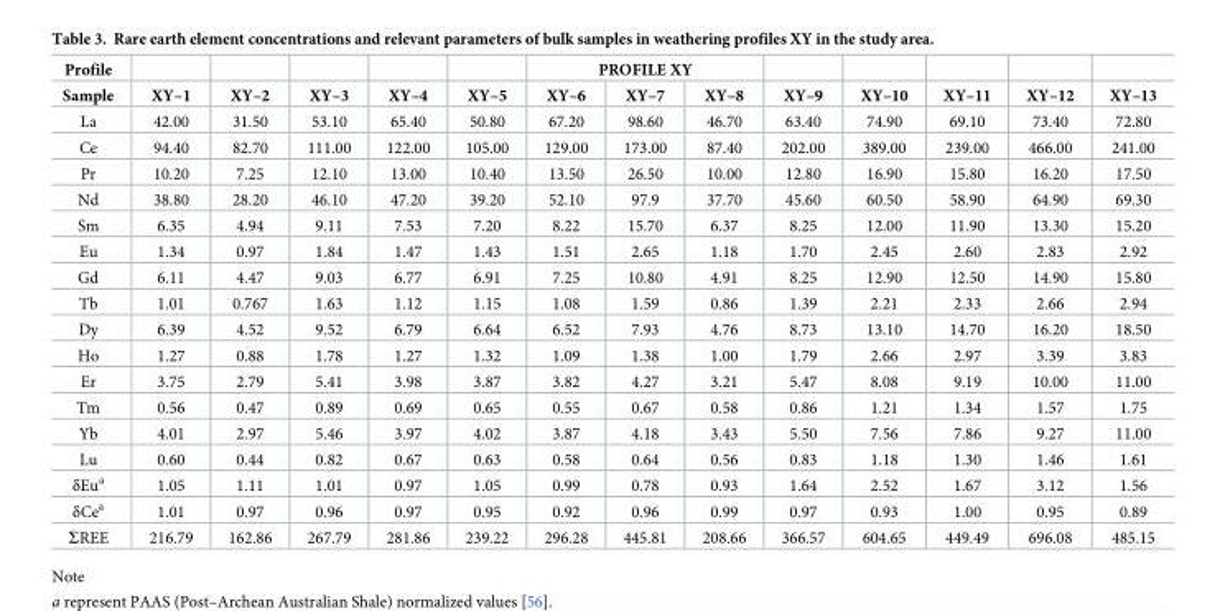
<table><thead><tr><td rowspan="2">Profile Sample</td><td rowspan="2">XY–1</td><td rowspan="2">XY–2</td><td rowspan="2">XY–3</td><td rowspan="2">XY–4</td><td rowspan="2">XY–5</td><td colspan="3">PROFILE XY</td><td rowspan="2">XY–9</td><td rowspan="2">XY–10</td><td rowspan="2">XY–11</td><td rowspan="2">XY–12</td><td rowspan="2">XY–13</td></tr><tr><td>XY–6</td><td>XY–7</td><td>XY–8</td></tr></thead><tbody><tr><td>La</td><td>42.00</td><td>31.50</td><td>53.10</td><td>65.40</td><td>50.80</td><td>67.20</td><td>98.60</td><td>46.70</td><td>63.40</td><td>74.90</td><td>69.10</td><td>73.40</td><td>72.80</td></tr><tr><td>Ce</td><td>94.40</td><td>82.70</td><td>111.00</td><td>122.00</td><td>105.00</td><td>129.00</td><td>173.00</td><td>87.40</td><td>202.00</td><td>389.00</td><td>239.00</td><td>466.00</td><td>241.00</td></tr><tr><td>Pr</td><td>10.20</td><td>7.25</td><td>12.10</td><td>13.00</td><td>10.40</td><td>13.50</td><td>26.50</td><td>10.00</td><td>12.80</td><td>16.90</td><td>15.80</td><td>16.20</td><td>17.50</td></tr><tr><td>Nd</td><td>38.80</td><td>28.20</td><td>46.10</td><td>47.20</td><td>39.20</td><td>52.10</td><td>97.9</td><td>37.70</td><td>45.60</td><td>60.50</td><td>58.90</td><td>64.90</td><td>69.30</td></tr><tr><td>Sm</td><td>6.35</td><td>4.94</td><td>9.11</td><td>7.53</td><td>7.20</td><td>8.22</td><td>15.70</td><td>6.37</td><td>8.25</td><td>12.00</td><td>11.90</td><td>13.30</td><td>15.20</td></tr><tr><td>Eu</td><td>1.34</td><td>0.97</td><td>1.84</td><td>1.47</td><td>1.43</td><td>1.51</td><td>2.65</td><td>1.18</td><td>1.70</td><td>2.45</td><td>2.60</td><td>2.83</td><td>2.92</td></tr><tr><td>Gd</td><td>6.11</td><td>4.47</td><td>9.03</td><td>6.77</td><td>6.91</td><td>7.25</td><td>10.80</td><td>4.91</td><td>8.25</td><td>12.90</td><td>12.50</td><td>14.90</td><td>15.80</td></tr><tr><td>Tb</td><td>1.01</td><td>0.767</td><td>1.63</td><td>1.12</td><td>1.15</td><td>1.08</td><td>1.59</td><td>0.86</td><td>1.39</td><td>2.21</td><td>2.33</td><td>2.66</td><td>2.94</td></tr><tr><td>Dy</td><td>6.39</td><td>4.52</td><td>9.52</td><td>6.79</td><td>6.64</td><td>6.52</td><td>7.93</td><td>4.76</td><td>8.73</td><td>13.10</td><td>14.70</td><td>16.20</td><td>18.50</td></tr><tr><td>Ho</td><td>1.27</td><td>0.88</td><td>1.78</td><td>1.27</td><td>1.32</td><td>1.09</td><td>1.38</td><td>1.00</td><td>1.79</td><td>2.66</td><td>2.97</td><td>3.39</td><td>3.83</td></tr><tr><td>Er</td><td>3.75</td><td>2.79</td><td>5.41</td><td>3.98</td><td>3.87</td><td>3.82</td><td>4.27</td><td>3.21</td><td>5.47</td><td>8.08</td><td>9.19</td><td>10.00</td><td>11.00</td></tr><tr><td>Tm</td><td>0.56</td><td>0.47</td><td>0.89</td><td>0.69</td><td>0.65</td><td>0.55</td><td>0.67</td><td>0.58</td><td>0.86</td><td>1.21</td><td>1.34</td><td>1.57</td><td>1.75</td></tr><tr><td>Yb</td><td>4.01</td><td>2.97</td><td>5.46</td><td>3.97</td><td>4.02</td><td>3.87</td><td>4.18</td><td>3.43</td><td>5.50</td><td>7.56</td><td>7.86</td><td>9.27</td><td>11.00</td></tr><tr><td>Lu</td><td>0.60</td><td>0.44</td><td>0.82</td><td>0.67</td><td>0.63</td><td>0.58</td><td>0.64</td><td>0.56</td><td>0.83</td><td>1.18</td><td>1.30</td><td>1.46</td><td>1.61</td></tr><tr><td>δEu<sup>a</sup></td><td>1.05</td><td>1.11</td><td>1.01</td><td>0.97</td><td>1.05</td><td>0.99</td><td>0.78</td><td>0.93</td><td>1.64</td><td>2.52</td><td>1.67</td><td>3.12</td><td>1.56</td></tr><tr><td>δCe<sup>a</sup></td><td>1.01</td><td>0.97</td><td>0.96</td><td>0.97</td><td>0.95</td><td>0.92</td><td>0.96</td><td>0.99</td><td>0.97</td><td>0.93</td><td>1.00</td><td>0.95</td><td>0.89</td></tr><tr><td>ΣREE</td><td>216.79</td><td>162.86</td><td>267.79</td><td>281.86</td><td>239.22</td><td>296.28</td><td>445.81</td><td>208.66</td><td>366.57</td><td>604.65</td><td>449.49</td><td>696.08</td><td>485.15</td></tr></tbody></table>